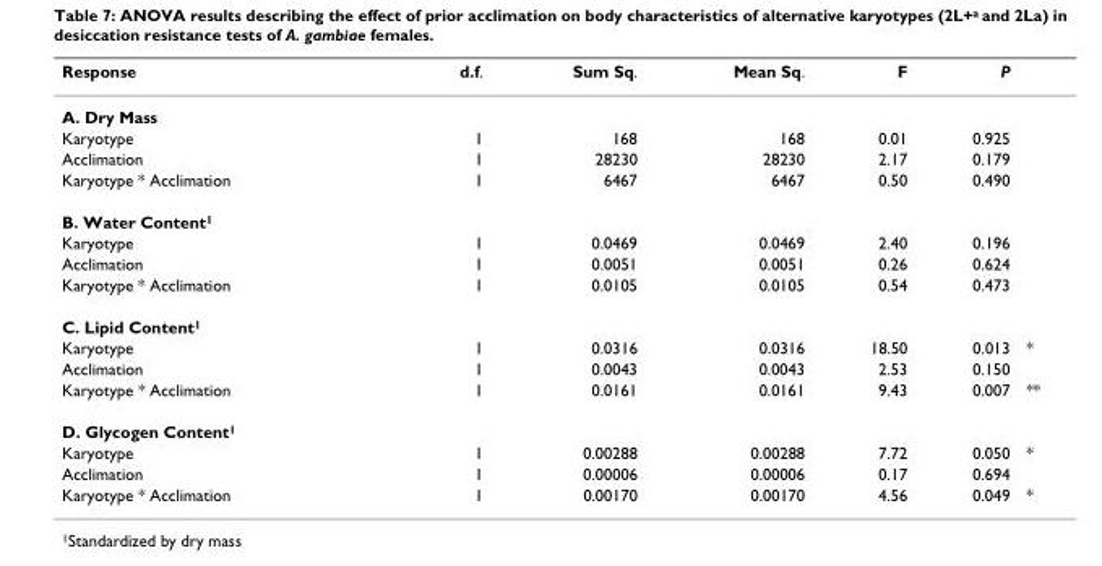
<table><thead><tr><td>Response</td><td>d.f.</td><td>Sum Sq.</td><td>Mean Sq.</td><td>F</td><td>P</td><td></td></tr></thead><tbody><tr><td colspan="7">A. Dry Mass</td></tr><tr><td>Karyotype</td><td>1</td><td>168</td><td>168</td><td>0.01</td><td>0.925</td><td></td></tr><tr><td>Acclimation</td><td>1</td><td>28230</td><td>28230</td><td>2.17</td><td>0.179</td><td></td></tr><tr><td>Karyotype * Acclimation</td><td>1</td><td>6467</td><td>6467</td><td>0.50</td><td>0.490</td><td></td></tr><tr><td colspan="7">B. Water Content<sup>1</sup></td></tr><tr><td>Karyotype</td><td>1</td><td>0.0469</td><td>0.0469</td><td>2.40</td><td>0.196</td><td></td></tr><tr><td>Acclimation</td><td>1</td><td>0.0051</td><td>0.0051</td><td>0.26</td><td>0.624</td><td></td></tr><tr><td>Karyotype * Acclimation</td><td>1</td><td>0.0105</td><td>0.0105</td><td>0.54</td><td>0.473</td><td></td></tr><tr><td colspan="7">C. Lipid Content<sup>1</sup></td></tr><tr><td>Karyotype</td><td>1</td><td>0.0316</td><td>0.0316</td><td>18.50</td><td>0.013</td><td>*</td></tr><tr><td>Acclimation</td><td>1</td><td>0.0043</td><td>0.0043</td><td>2.53</td><td>0.150</td><td></td></tr><tr><td>Karyotype * Acclimation</td><td>1</td><td>0.0161</td><td>0.0161</td><td>9.43</td><td>0.007</td><td>**</td></tr><tr><td colspan="7">D. Glycogen Content<sup>1</sup></td></tr><tr><td>Karyotype</td><td>1</td><td>0.00288</td><td>0.00288</td><td>7.72</td><td>0.050</td><td>*</td></tr><tr><td>Acclimation</td><td>1</td><td>0.00006</td><td>0.00006</td><td>0.17</td><td>0.694</td><td></td></tr><tr><td>Karyotype * Acclimation</td><td>1</td><td>0.00170</td><td>0.00170</td><td>4.56</td><td>0.049</td><td>*</td></tr></tbody></table>